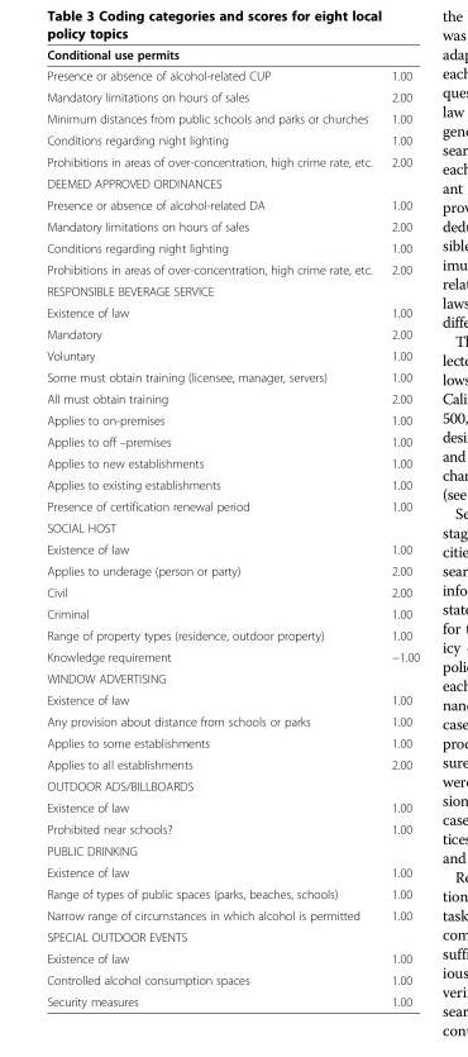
<table><thead><tr><td>Conditional use permits</td><td></td></tr></thead><tbody><tr><td>Presence or absence of alcohol-related CUP</td><td>1.00</td></tr><tr><td>Mandatory limitations on hours of sales</td><td>2.00</td></tr><tr><td>Minimum distances from public schools and parks or churches</td><td>1.00</td></tr><tr><td>Conditions regarding night lighting</td><td>1.00</td></tr><tr><td>Prohibitions in areas of over-concentration, high crime rate, etc.</td><td>2.00</td></tr><tr><td colspan="2">DEEMED APPROVED ORDINANCES</td></tr><tr><td>Presence or absence of alcohol-related DA</td><td>1.00</td></tr><tr><td>Mandatory limitations on hours of sales</td><td>2.00</td></tr><tr><td>Conditions regarding night lighting</td><td>1.00</td></tr><tr><td>Prohibitions in areas of over-concentration, high crime rate, etc.</td><td>2.00</td></tr><tr><td colspan="2">RESPONSIBLE BEVERAGE SERVICE</td></tr><tr><td>Existence of law</td><td>1.00</td></tr><tr><td>Mandatory</td><td>2.00</td></tr><tr><td>Voluntary</td><td>1.00</td></tr><tr><td>Some must obtain training (licensee, manager, servers)</td><td>1.00</td></tr><tr><td>All must obtain training</td><td>2.00</td></tr><tr><td>Applies to on-premises</td><td>1.00</td></tr><tr><td>Applies to off –premises</td><td>1.00</td></tr><tr><td>Applies to new establishments</td><td>1.00</td></tr><tr><td>Applies to existing establishments</td><td>1.00</td></tr><tr><td>Presence of certification renewal period</td><td>1.00</td></tr><tr><td colspan="2">SOCIAL HOST</td></tr><tr><td>Existence of law</td><td>1.00</td></tr><tr><td>Applies to underage (person or party)</td><td>2.00</td></tr><tr><td>Civil</td><td>2.00</td></tr><tr><td>Criminal</td><td>1.00</td></tr><tr><td>Range of property types (residence, outdoor property)</td><td>1.00</td></tr><tr><td>Knowledge requirement</td><td>−1.00</td></tr><tr><td colspan="2">WINDOW ADVERTISING</td></tr><tr><td>Existence of law</td><td>1.00</td></tr><tr><td>Any provision about distance from schools or parks</td><td>1.00</td></tr><tr><td>Applies to some establishments</td><td>1.00</td></tr><tr><td>Applies to all establishments</td><td>2.00</td></tr><tr><td colspan="2">OUTDOOR ADS/BILLBOARDS</td></tr><tr><td>Existence of law</td><td>1.00</td></tr><tr><td>Prohibited near schools?</td><td>1.00</td></tr><tr><td colspan="2">PUBLIC DRINKING</td></tr><tr><td>Existence of law</td><td>1.00</td></tr><tr><td>Range of types of public spaces (parks, beaches, schools)</td><td>1.00</td></tr><tr><td>Narrow range of circumstances in which alcohol is permitted</td><td>1.00</td></tr><tr><td colspan="2">SPECIAL OUTDOOR EVENTS</td></tr><tr><td>Existence of law</td><td>1.00</td></tr><tr><td>Controlled alcohol consumption spaces</td><td>1.00</td></tr><tr><td>Security measures</td><td>1.00</td></tr></tbody></table>